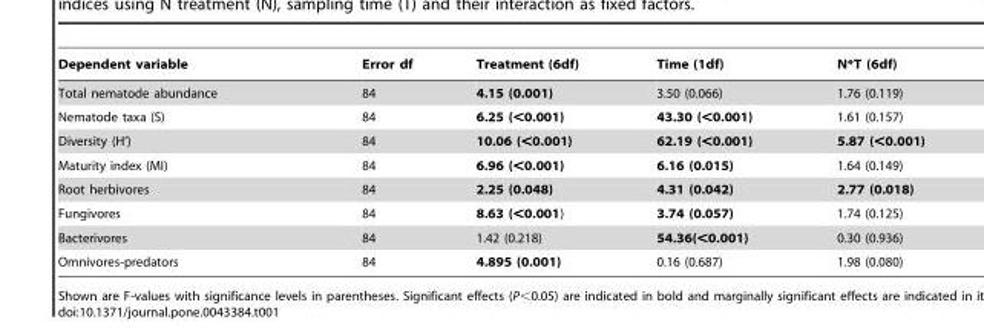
<table><thead><tr><td>Dependent variable</td><td>Error df</td><td>Treatment (6df)</td><td>Time (1df)</td><td>N*T (6df)</td></tr></thead><tbody><tr><td>Total nematode abundance</td><td>84</td><td>4.15 (0.001)</td><td>3.50 (0.066)</td><td>1.76 (0.119)</td></tr><tr><td>Nematode taxa (S)</td><td>84</td><td>6.25 (&lt;0.001)</td><td>43.30 (&lt;0.001)</td><td>1.61 (0.157)</td></tr><tr><td>Diversity (H’)</td><td>84</td><td>10.06 (&lt;0.001)</td><td>62.19 (&lt;0.001)</td><td>5.87 (&lt;0.001)</td></tr><tr><td>Maturity index (MI)</td><td>84</td><td>6.96 (&lt;0.001)</td><td>6.16 (0.015)</td><td>1.64 (0.149)</td></tr><tr><td>Root herbivores</td><td>84</td><td>2.25 (0.048)</td><td>4.31 (0.042)</td><td>2.77 (0.018)</td></tr><tr><td>Fungivores</td><td>84</td><td>8.63 (&lt;0.001)</td><td>3.74 (0.057)</td><td>1.74 (0.125)</td></tr><tr><td>Bacterivores</td><td>84</td><td>1.42 (0.218)</td><td>54.36(&lt;0.001)</td><td>0.30 (0.936)</td></tr><tr><td>Omnivores-predators</td><td>84</td><td>4.895 (0.001)</td><td>0.16 (0.687)</td><td>1.98 (0.080)</td></tr></tbody></table>